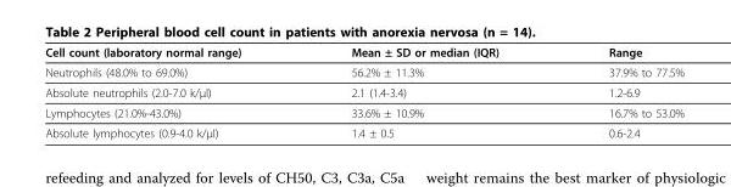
<table><thead><tr><td>Cell count (laboratory normal range)</td><td>Mean ± SD or median (IQR)</td><td>Range</td></tr></thead><tbody><tr><td>Neutrophils (48.0% to 69.0%)</td><td>56.2% ± 11.3%</td><td>37.9% to 77.5%</td></tr><tr><td>Absolute neutrophils (2.0-7.0 k/μl)</td><td>2.1 (1.4-3.4)</td><td>1.2-6.9</td></tr><tr><td>Lymphocytes (21.0%-43.0%)</td><td>33.6% ± 10.9%</td><td>16.7% to 53.0%</td></tr><tr><td>Absolute lymphocytes (0.9-4.0 k/μl)</td><td>1.4 ± 0.5</td><td>0.6-2.4</td></tr></tbody></table>